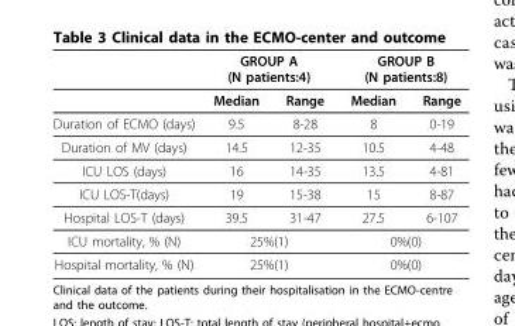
<table><thead><tr><td rowspan="2"></td><td colspan="2">GROUP A (N patients:4)</td><td colspan="2">GROUP B (N patients:8)</td></tr><tr><td>Median</td><td>Range</td><td>Median</td><td>Range</td></tr></thead><tbody><tr><td>Duration of ECMO (days)</td><td>9.5</td><td>8-28</td><td>8</td><td>0-19</td></tr><tr><td>Duration of MV (days)</td><td>14.5</td><td>12-35</td><td>10.5</td><td>4-48</td></tr><tr><td>ICU LOS (days)</td><td>16</td><td>14-35</td><td>13.5</td><td>4-81</td></tr><tr><td>ICU LOS-T(days)</td><td>19</td><td>15-38</td><td>15</td><td>8-87</td></tr><tr><td>Hospital LOS-T (days)</td><td>39.5</td><td>31-47</td><td>27.5</td><td>6-107</td></tr><tr><td>ICU mortality, % (N)</td><td colspan="2">25%(1)</td><td colspan="2">0%(0)</td></tr><tr><td>Hospital mortality, % (N)</td><td colspan="2">25%(1)</td><td colspan="2">0%(0)</td></tr></tbody></table>